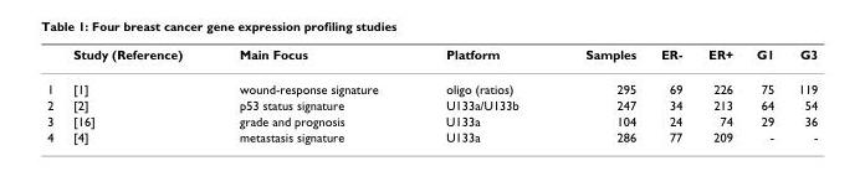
<table><thead><tr><td></td><td>Study (Reference)</td><td>Main Focus</td><td>Platform</td><td>Samples</td><td>ER-</td><td>ER+</td><td>G1</td><td>G3</td></tr></thead><tbody><tr><td>1</td><td>[1]</td><td>wound-response signature</td><td>oligo (ratios)</td><td>295</td><td>69</td><td>226</td><td>75</td><td>119</td></tr><tr><td>2</td><td>[2]</td><td>p53 status signature</td><td>U133a/U133b</td><td>247</td><td>34</td><td>213</td><td>64</td><td>54</td></tr><tr><td>3</td><td>[16]</td><td>grade and prognosis</td><td>U133a</td><td>104</td><td>24</td><td>74</td><td>29</td><td>36</td></tr><tr><td>4</td><td>[4]</td><td>metastasis signature</td><td>U133a</td><td>286</td><td>77</td><td>209</td><td>-</td><td>-</td></tr></tbody></table>